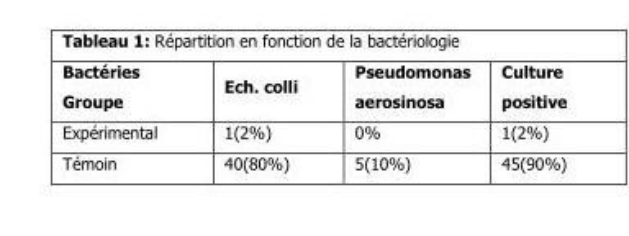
<table><thead><tr><td>Bactéries Groupe</td><td>Ech. colli</td><td>Pseudomonas aerosinosa</td><td>Culture positive</td></tr></thead><tbody><tr><td>Expérimental</td><td>1(2%)</td><td>0%</td><td>1(2%)</td></tr><tr><td>Témoin</td><td>40(80%)</td><td>5(10%)</td><td>45(90%)</td></tr></tbody></table>